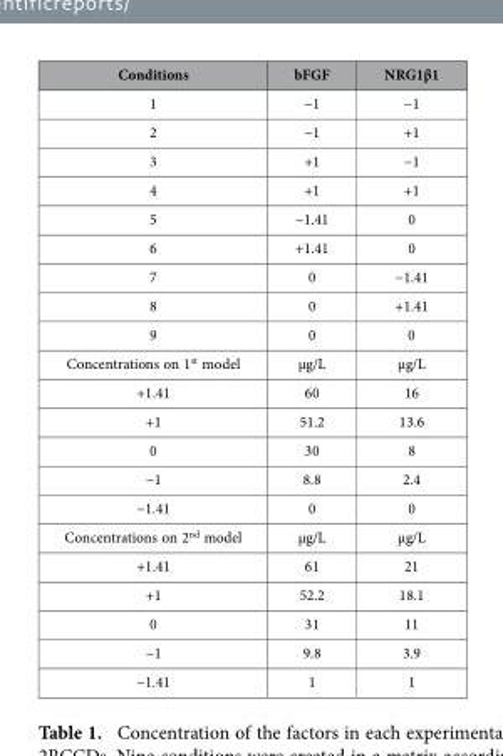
<table><thead><tr><td>Conditions</td><td>bFGF</td><td>NRG1β1</td></tr></thead><tbody><tr><td>1</td><td>−1</td><td>−1</td></tr><tr><td>2</td><td>−1</td><td>+1</td></tr><tr><td>3</td><td>+1</td><td>−1</td></tr><tr><td>4</td><td>+1</td><td>+1</td></tr><tr><td>5</td><td>−1.41</td><td>0</td></tr><tr><td>6</td><td>+1.41</td><td>0</td></tr><tr><td>7</td><td>0</td><td>−1.41</td></tr><tr><td>8</td><td>0</td><td>+1.41</td></tr><tr><td>9</td><td>0</td><td>0</td></tr><tr><td>Concentrations on 1<sup>st</sup> model</td><td>μg/L</td><td>μg/L</td></tr><tr><td>+1.41</td><td>60</td><td>16</td></tr><tr><td>+1</td><td>51.2</td><td>13.6</td></tr><tr><td>0</td><td>30</td><td>8</td></tr><tr><td>−1</td><td>8.8</td><td>2.4</td></tr><tr><td>−1.41</td><td>0</td><td>0</td></tr><tr><td>Concentrations on 2<sup>nd</sup> model</td><td>μg/L</td><td>μg/L</td></tr><tr><td>+1.41</td><td>61</td><td>21</td></tr><tr><td>+1</td><td>52.2</td><td>18.1</td></tr><tr><td>0</td><td>31</td><td>11</td></tr><tr><td>−1</td><td>9.8</td><td>3.9</td></tr><tr><td>−1.41</td><td>1</td><td>1</td></tr></tbody></table>